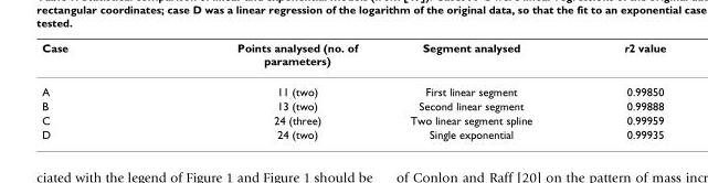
<table><thead><tr><td>Case</td><td>Points analysed (no. of parameters)</td><td>Segment analysed</td><td>r2 value</td></tr></thead><tbody><tr><td>A</td><td>11 (two)</td><td>First linear segment</td><td>0.99850</td></tr><tr><td>B</td><td>13 (two)</td><td>Second linear segment</td><td>0.99888</td></tr><tr><td>C</td><td>24 (three)</td><td>Two linear segment spline</td><td>0.99959</td></tr><tr><td>D</td><td>24 (two)</td><td>Single exponential</td><td>0.99935</td></tr></tbody></table>